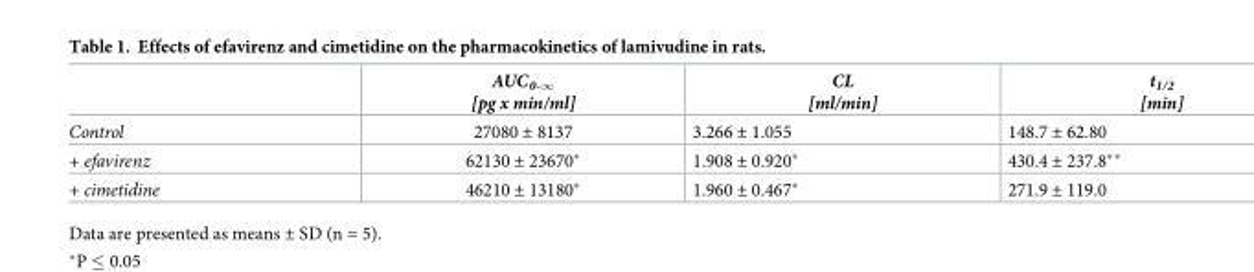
<table><thead><tr><td></td><td>AUC<sub>0-∞</sub> [pg x min/ml]</td><td>CL [ml/min]</td><td>t<sub>1/2</sub> [min]</td></tr></thead><tbody><tr><td>Control</td><td>27080 ± 8137</td><td>3.266 ± 1.055</td><td>148.7 ± 62.80</td></tr><tr><td>+ efavirenz</td><td>62130 ± 23670*</td><td>1.908 ± 0.920*</td><td>430.4 ± 237.8**</td></tr><tr><td>+ cimetidine</td><td>46210 ± 13180*</td><td>1.960 ± 0.467*</td><td>271.9 ± 119.0</td></tr></tbody></table>